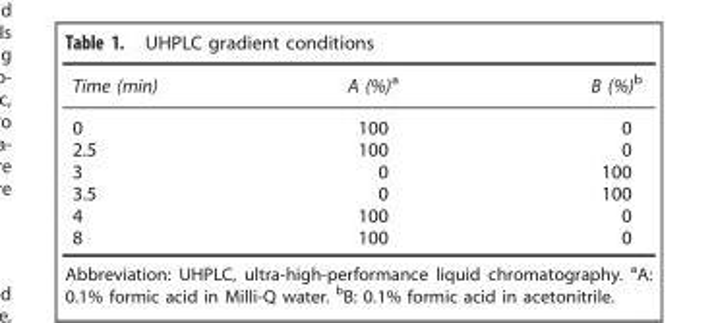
<table><thead><tr><td>Time (min)</td><td>A (%)<sup>a</sup></td><td>B (%)<sup>b</sup></td></tr></thead><tbody><tr><td>0</td><td>100</td><td>0</td></tr><tr><td>2.5</td><td>100</td><td>0</td></tr><tr><td>3</td><td>0</td><td>100</td></tr><tr><td>3.5</td><td>0</td><td>100</td></tr><tr><td>4</td><td>100</td><td>0</td></tr><tr><td>8</td><td>100</td><td>0</td></tr></tbody></table>